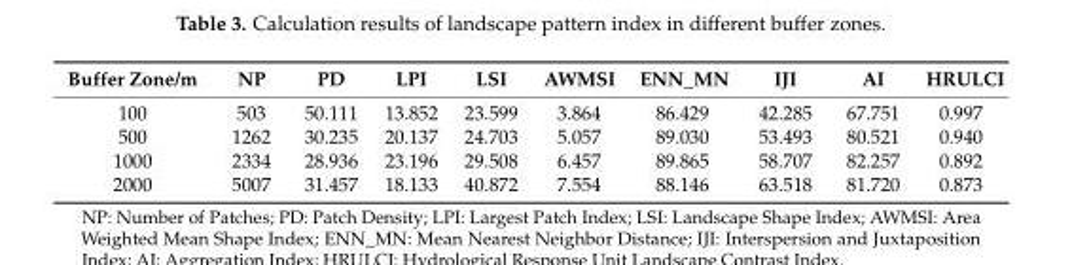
<table><thead><tr><td>Buffer Zone/m</td><td>NP</td><td>PD</td><td>LPI</td><td>LSI</td><td>AWMSI</td><td>ENN_MN</td><td>IJI</td><td>AI</td><td>HRULCI</td></tr></thead><tbody><tr><td>100</td><td>503</td><td>50.111</td><td>13.852</td><td>23.599</td><td>3.864</td><td>86.429</td><td>42.285</td><td>67.751</td><td>0.997</td></tr><tr><td>500</td><td>1262</td><td>30.235</td><td>20.137</td><td>24.703</td><td>5.057</td><td>89.030</td><td>53.493</td><td>80.521</td><td>0.940</td></tr><tr><td>1000</td><td>2334</td><td>28.936</td><td>23.196</td><td>29.508</td><td>6.457</td><td>89.865</td><td>58.707</td><td>82.257</td><td>0.892</td></tr><tr><td>2000</td><td>5007</td><td>31.457</td><td>18.133</td><td>40.872</td><td>7.554</td><td>88.146</td><td>63.518</td><td>81.720</td><td>0.873</td></tr></tbody></table>